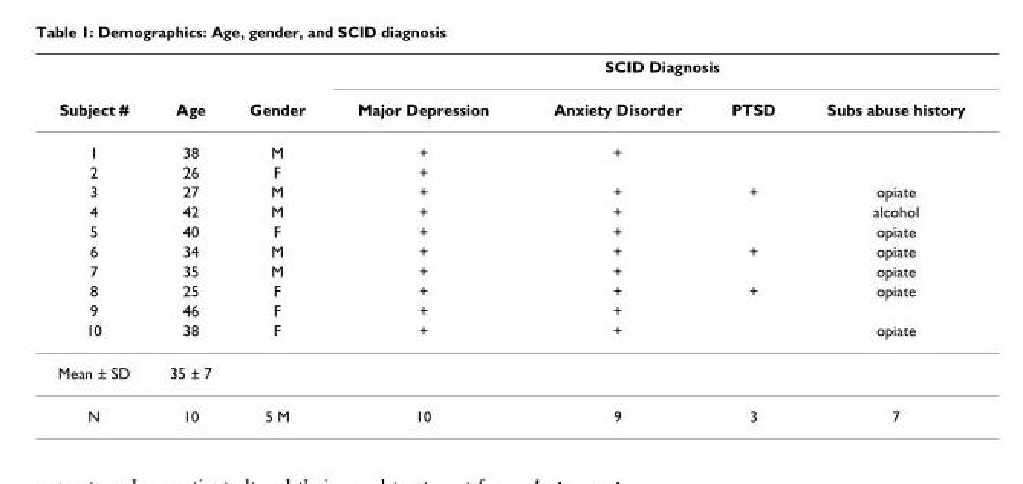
<table><thead><tr><td rowspan="2">Subject #</td><td rowspan="2">Age</td><td rowspan="2">Gender</td><td colspan="4">SCID Diagnosis</td></tr><tr><td>Major Depression</td><td>Anxiety Disorder</td><td>PTSD</td><td>Subs abuse history</td></tr></thead><tbody><tr><td>1</td><td>38</td><td>M</td><td>+</td><td>+</td><td></td><td></td></tr><tr><td>2</td><td>26</td><td>F</td><td>+</td><td></td><td></td><td></td></tr><tr><td>3</td><td>27</td><td>M</td><td>+</td><td>+</td><td>+</td><td>opiate</td></tr><tr><td>4</td><td>42</td><td>M</td><td>+</td><td>+</td><td></td><td>alcohol</td></tr><tr><td>5</td><td>40</td><td>F</td><td>+</td><td>+</td><td></td><td>opiate</td></tr><tr><td>6</td><td>34</td><td>M</td><td>+</td><td>+</td><td>+</td><td>opiate</td></tr><tr><td>7</td><td>35</td><td>M</td><td>+</td><td>+</td><td></td><td>opiate</td></tr><tr><td>8</td><td>25</td><td>F</td><td>+</td><td>+</td><td>+</td><td>opiate</td></tr><tr><td>9</td><td>46</td><td>F</td><td>+</td><td>+</td><td></td><td></td></tr><tr><td>10</td><td>38</td><td>F</td><td>+</td><td>+</td><td></td><td>opiate</td></tr><tr><td>Mean ± SD</td><td>35 ± 7</td><td></td><td></td><td></td><td></td><td></td></tr><tr><td>N</td><td>10</td><td>5 M</td><td>10</td><td>9</td><td>3</td><td>7</td></tr></tbody></table>